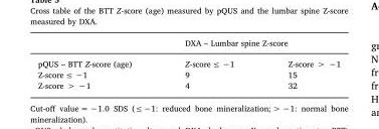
<table><thead><tr><td rowspan="2">pQUS – BTT Z-score (age)</td><td colspan="2">DXA – Lumbar spine Z-score</td></tr><tr><td>Z-score ≤ −1</td><td>Z-score &gt; −1</td></tr></thead><tbody><tr><td>Z-score ≤ −1</td><td>9</td><td>15</td></tr><tr><td>Z-score &gt; −1</td><td>4</td><td>32</td></tr></tbody></table>